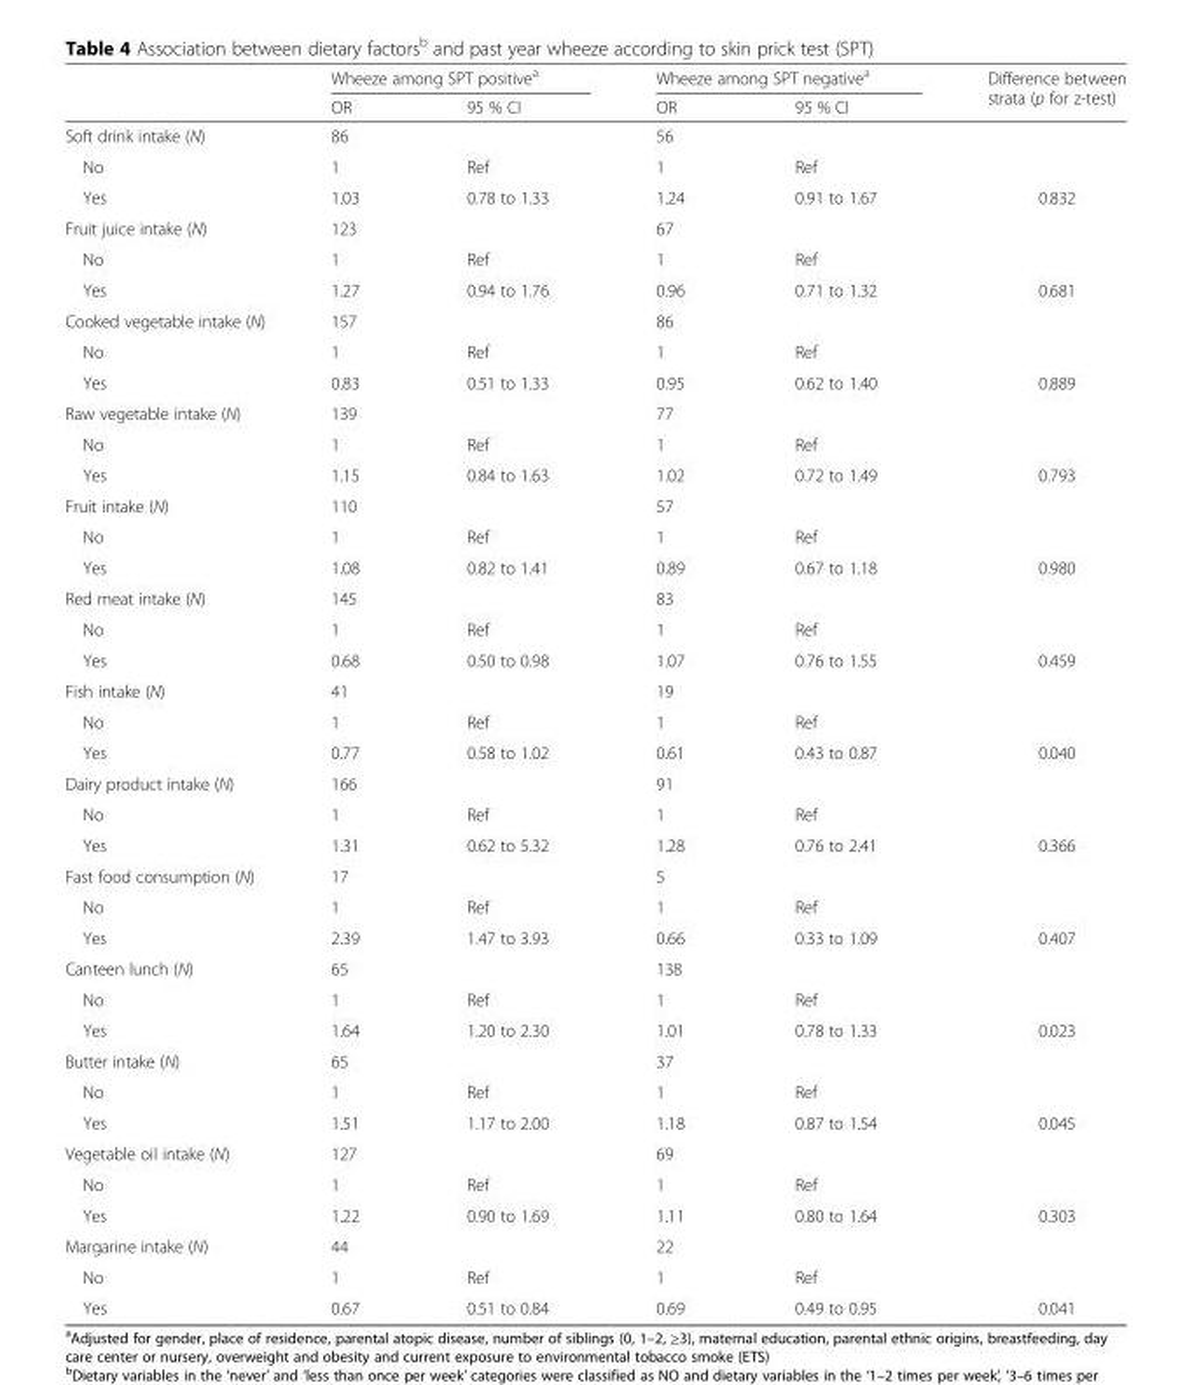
<table><thead><tr><td rowspan="2"></td><td colspan="2">Wheeze among SPT positive<sup>a</sup></td><td colspan="2">Wheeze among SPT negative<sup>a</sup></td><td rowspan="2">Difference between strata (p for z-test)</td></tr><tr><td>OR</td><td>95 % CI</td><td>OR</td><td>95 % CI</td></tr></thead><tbody><tr><td>Soft drink intake (N)</td><td>86</td><td></td><td>56</td><td></td><td></td></tr><tr><td>No</td><td>1</td><td>Ref</td><td>1</td><td>Ref</td><td></td></tr><tr><td>Yes</td><td>1.03</td><td>0.78 to 1.33</td><td>1.24</td><td>0.91 to 1.67</td><td>0.832</td></tr><tr><td>Fruit juice intake (N)</td><td>123</td><td></td><td>67</td><td></td><td></td></tr><tr><td>No</td><td>1</td><td>Ref</td><td>1</td><td>Ref</td><td></td></tr><tr><td>Yes</td><td>1.27</td><td>0.94 to 1.76</td><td>0.96</td><td>0.71 to 1.32</td><td>0.681</td></tr><tr><td>Cooked vegetable intake (N)</td><td>157</td><td></td><td>86</td><td></td><td></td></tr><tr><td>No</td><td>1</td><td>Ref</td><td>1</td><td>Ref</td><td></td></tr><tr><td>Yes</td><td>0.83</td><td>0.51 to 1.33</td><td>0.95</td><td>0.62 to 1.40</td><td>0.889</td></tr><tr><td>Raw vegetable intake (N)</td><td>139</td><td></td><td>77</td><td></td><td></td></tr><tr><td>No</td><td>1</td><td>Ref</td><td>1</td><td>Ref</td><td></td></tr><tr><td>Yes</td><td>1.15</td><td>0.84 to 1.63</td><td>1.02</td><td>0.72 to 1.49</td><td>0.793</td></tr><tr><td>Fruit intake (N)</td><td>110</td><td></td><td>57</td><td></td><td></td></tr><tr><td>No</td><td>1</td><td>Ref</td><td>1</td><td>Ref</td><td></td></tr><tr><td>Yes</td><td>1.08</td><td>0.82 to 1.41</td><td>0.89</td><td>0.67 to 1.18</td><td>0.980</td></tr><tr><td>Red meat intake (N)</td><td>145</td><td></td><td>83</td><td></td><td></td></tr><tr><td>No</td><td>1</td><td>Ref</td><td>1</td><td>Ref</td><td></td></tr><tr><td>Yes</td><td>0.68</td><td>0.50 to 0.98</td><td>1.07</td><td>0.76 to 1.55</td><td>0.459</td></tr><tr><td>Fish intake (N)</td><td>41</td><td></td><td>19</td><td></td><td></td></tr><tr><td>No</td><td>1</td><td>Ref</td><td>1</td><td>Ref</td><td></td></tr><tr><td>Yes</td><td>0.77</td><td>0.58 to 1.02</td><td>0.61</td><td>0.43 to 0.87</td><td>0.040</td></tr><tr><td>Dairy product intake (N)</td><td>166</td><td></td><td>91</td><td></td><td></td></tr><tr><td>No</td><td>1</td><td>Ref</td><td>1</td><td>Ref</td><td></td></tr><tr><td>Yes</td><td>1.31</td><td>0.62 to 5.32</td><td>1.28</td><td>0.76 to 2.41</td><td>0.366</td></tr><tr><td>Fast food consumption (N)</td><td>17</td><td></td><td>5</td><td></td><td></td></tr><tr><td>No</td><td>1</td><td>Ref</td><td>1</td><td>Ref</td><td></td></tr><tr><td>Yes</td><td>2.39</td><td>1.47 to 3.93</td><td>0.66</td><td>0.33 to 1.09</td><td>0.407</td></tr><tr><td>Canteen lunch (N)</td><td>65</td><td></td><td>138</td><td></td><td></td></tr><tr><td>No</td><td>1</td><td>Ref</td><td>1</td><td>Ref</td><td></td></tr><tr><td>Yes</td><td>1.64</td><td>1.20 to 2.30</td><td>1.01</td><td>0.78 to 1.33</td><td>0.023</td></tr><tr><td>Butter intake (N)</td><td>65</td><td></td><td>37</td><td></td><td></td></tr><tr><td>No</td><td>1</td><td>Ref</td><td>1</td><td>Ref</td><td></td></tr><tr><td>Yes</td><td>1.51</td><td>1.17 to 2.00</td><td>1.18</td><td>0.87 to 1.54</td><td>0.045</td></tr><tr><td>Vegetable oil intake (N)</td><td>127</td><td></td><td>69</td><td></td><td></td></tr><tr><td>No</td><td>1</td><td>Ref</td><td>1</td><td>Ref</td><td></td></tr><tr><td>Yes</td><td>1.22</td><td>0.90 to 1.69</td><td>1.11</td><td>0.80 to 1.64</td><td>0.303</td></tr><tr><td>Margarine intake (N)</td><td>44</td><td></td><td>22</td><td></td><td></td></tr><tr><td>No</td><td>1</td><td>Ref</td><td>1</td><td>Ref</td><td></td></tr><tr><td>Yes</td><td>0.67</td><td>0.51 to 0.84</td><td>0.69</td><td>0.49 to 0.95</td><td>0.041</td></tr></tbody></table>